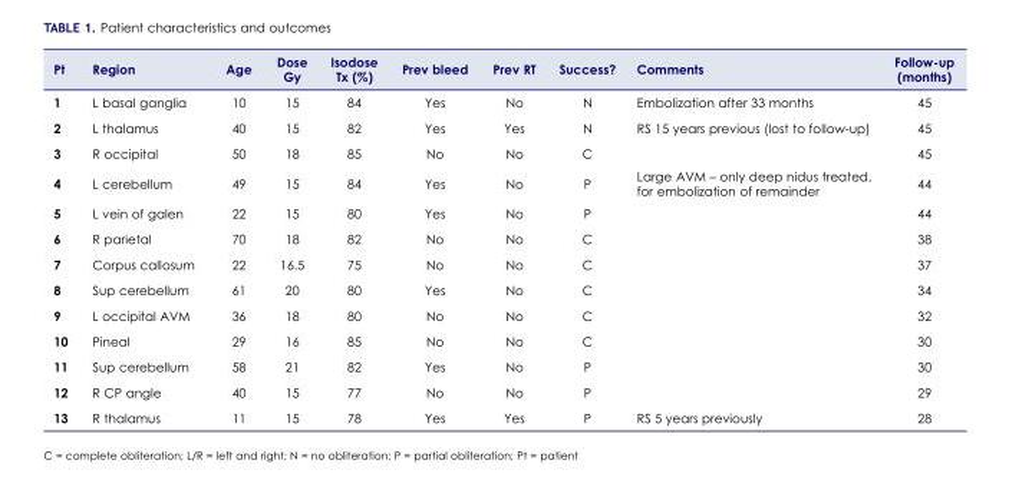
<table><thead><tr><td>Pt</td><td>R egion</td><td>Age</td><td>Dose Gy</td><td>Isodose Tx (%)</td><td>Prev bleed</td><td>Prev RT</td><td>Success?</td><td>Comments</td><td>Follow-up (months)</td></tr></thead><tbody><tr><td>1</td><td>L basal ganglia</td><td>10</td><td>15</td><td>84</td><td>Yes</td><td>No</td><td>N</td><td>Embolization after 33 months</td><td>45</td></tr><tr><td>2</td><td>L thalamus</td><td>40</td><td>15</td><td>82</td><td>Yes</td><td>Yes</td><td>N</td><td>RS 15 years previous (lost to follow-up)</td><td>45</td></tr><tr><td>3</td><td>R occipital</td><td>50</td><td>18</td><td>85</td><td>No</td><td>No</td><td>C</td><td></td><td>45</td></tr><tr><td>4</td><td>L cerebellum</td><td>49</td><td>15</td><td>84</td><td>Yes</td><td>No</td><td>P</td><td>Large AVM – only deep nidus treated, for embolization of remainder</td><td>44</td></tr><tr><td>5</td><td>L vein of galen</td><td>22</td><td>15</td><td>80</td><td>Yes</td><td>No</td><td>P</td><td></td><td>44</td></tr><tr><td>6</td><td>R parietal</td><td>70</td><td>18</td><td>82</td><td>No</td><td>No</td><td>C</td><td></td><td>38</td></tr><tr><td>7</td><td>Corpus callosum</td><td>22</td><td>16.5</td><td>75</td><td>No</td><td>No</td><td>C</td><td></td><td>37</td></tr><tr><td>8</td><td>Sup cerebellum</td><td>61</td><td>20</td><td>80</td><td>Yes</td><td>No</td><td>C</td><td></td><td>34</td></tr><tr><td>9</td><td>L occipital AVM</td><td>36</td><td>18</td><td>80</td><td>No</td><td>No</td><td>C</td><td></td><td>32</td></tr><tr><td>10</td><td>Pineal</td><td>29</td><td>16</td><td>85</td><td>No</td><td>No</td><td>C</td><td></td><td>30</td></tr><tr><td>11</td><td>Sup cerebellum</td><td>58</td><td>21</td><td>82</td><td>Yes</td><td>No</td><td>P</td><td></td><td>30</td></tr><tr><td>12</td><td>R CP angle</td><td>40</td><td>15</td><td>77</td><td>No</td><td>No</td><td>P</td><td></td><td>29</td></tr><tr><td>13</td><td>R thalamus</td><td>11</td><td>15</td><td>78</td><td>Yes</td><td>Yes</td><td>P</td><td>RS 5 years previously</td><td>28</td></tr></tbody></table>